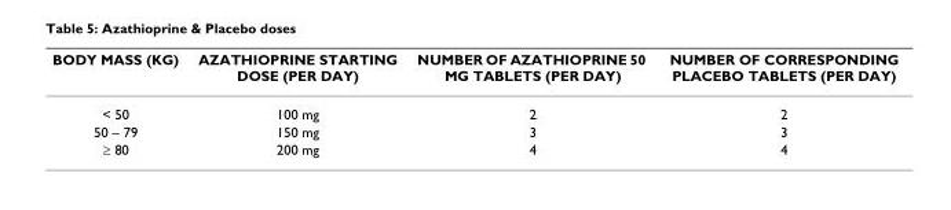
<table><thead><tr><td>BODY MASS (KG)</td><td>AZATHIOPRINE STARTING DOSE (PER DAY)</td><td>NUMBER OF AZATHIOPRINE 50 MG TABLETS (PER DAY)</td><td>NUMBER OF CORRESPONDING PLACEBO TABLETS (PER DAY)</td></tr></thead><tbody><tr><td>&lt; 50</td><td>100 mg</td><td>2</td><td>2</td></tr><tr><td>50 – 79</td><td>150 mg</td><td>3</td><td>3</td></tr><tr><td>≥ 80</td><td>200 mg</td><td>4</td><td>4</td></tr></tbody></table>